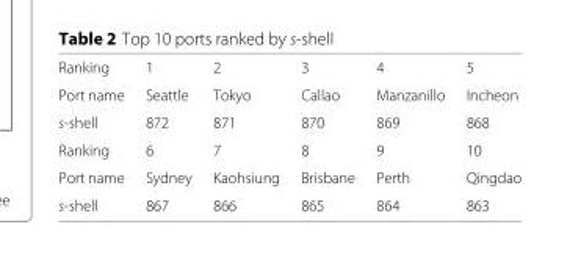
<table><tbody><tr><td>Ranking</td><td>1</td><td>2</td><td>3</td><td>4</td><td>5</td></tr><tr><td>Port name</td><td>Seattle</td><td>Tokyo</td><td>Callao</td><td>Manzanillo</td><td>Incheon</td></tr><tr><td>s-shell</td><td>872</td><td>871</td><td>870</td><td>869</td><td>868</td></tr><tr><td>Ranking</td><td>6</td><td>7</td><td>8</td><td>9</td><td>10</td></tr><tr><td>Port name</td><td>Sydney</td><td>Kaohsiung</td><td>Brisbane</td><td>Perth</td><td>Qingdao</td></tr><tr><td>s-shell</td><td>867</td><td>866</td><td>865</td><td>864</td><td>863</td></tr></tbody></table>